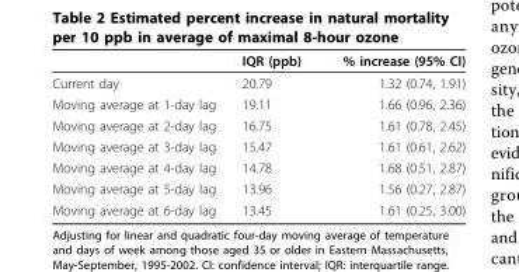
<table><thead><tr><td></td><td>IQR (ppb)</td><td>% increase (95% CI)</td></tr></thead><tbody><tr><td>Current day</td><td>20.79</td><td>1.32 (0.74, 1.91)</td></tr><tr><td>Moving average at 1-day lag</td><td>19.11</td><td>1.66 (0.96, 2.36)</td></tr><tr><td>Moving average at 2-day lag</td><td>16.75</td><td>1.61 (0.78, 2.45)</td></tr><tr><td>Moving average at 3-day lag</td><td>15.47</td><td>1.61 (0.61, 2.62)</td></tr><tr><td>Moving average at 4-day lag</td><td>14.78</td><td>1.68 (0.51, 2.87)</td></tr><tr><td>Moving average at 5-day lag</td><td>13.96</td><td>1.56 (0.27, 2.87)</td></tr><tr><td>Moving average at 6-day lag</td><td>13.45</td><td>1.61 (0.25, 3.00)</td></tr></tbody></table>